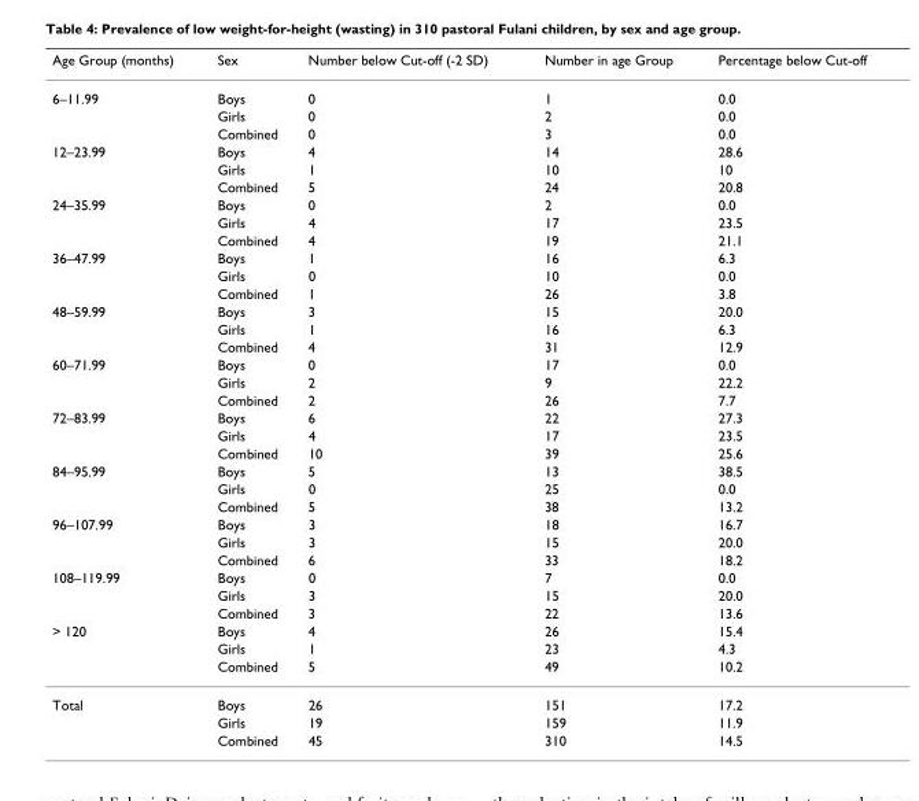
<table><thead><tr><td>Age Group (months)</td><td>Sex</td><td>Number below Cut-off (-2 SD)</td><td>Number in age Group</td><td>Percentage below Cut-off</td></tr></thead><tbody><tr><td rowspan="3">6–11.99</td><td>Boys</td><td>0</td><td>1</td><td>0.0</td></tr><tr><td>Girls</td><td>0</td><td>2</td><td>0.0</td></tr><tr><td>Combined</td><td>0</td><td>3</td><td>0.0</td></tr><tr><td rowspan="3">12–23.99</td><td>Boys</td><td>4</td><td>14</td><td>28.6</td></tr><tr><td>Girls</td><td>1</td><td>10</td><td>10</td></tr><tr><td>Combined</td><td>5</td><td>24</td><td>20.8</td></tr><tr><td rowspan="3">24–35.99</td><td>Boys</td><td>0</td><td>2</td><td>0.0</td></tr><tr><td>Girls</td><td>4</td><td>17</td><td>23.5</td></tr><tr><td>Combined</td><td>4</td><td>19</td><td>21.1</td></tr><tr><td rowspan="3">36–47.99</td><td>Boys</td><td>1</td><td>16</td><td>6.3</td></tr><tr><td>Girls</td><td>0</td><td>10</td><td>0.0</td></tr><tr><td>Combined</td><td>1</td><td>26</td><td>3.8</td></tr><tr><td rowspan="3">48–59.99</td><td>Boys</td><td>3</td><td>15</td><td>20.0</td></tr><tr><td>Girls</td><td>1</td><td>16</td><td>6.3</td></tr><tr><td>Combined</td><td>4</td><td>31</td><td>12.9</td></tr><tr><td rowspan="3">60–71.99</td><td>Boys</td><td>0</td><td>17</td><td>0.0</td></tr><tr><td>Girls</td><td>2</td><td>9</td><td>22.2</td></tr><tr><td>Combined</td><td>2</td><td>26</td><td>7.7</td></tr><tr><td rowspan="3">72–83.99</td><td>Boys</td><td>6</td><td>22</td><td>27.3</td></tr><tr><td>Girls</td><td>4</td><td>17</td><td>23.5</td></tr><tr><td>Combined</td><td>10</td><td>39</td><td>25.6</td></tr><tr><td rowspan="3">84–95.99</td><td>Boys</td><td>5</td><td>13</td><td>38.5</td></tr><tr><td>Girls</td><td>0</td><td>25</td><td>0.0</td></tr><tr><td>Combined</td><td>5</td><td>38</td><td>13.2</td></tr><tr><td rowspan="3">96–107.99</td><td>Boys</td><td>3</td><td>18</td><td>16.7</td></tr><tr><td>Girls</td><td>3</td><td>15</td><td>20.0</td></tr><tr><td>Combined</td><td>6</td><td>33</td><td>18.2</td></tr><tr><td rowspan="3">108–119.99</td><td>Boys</td><td>0</td><td>7</td><td>0.0</td></tr><tr><td>Girls</td><td>3</td><td>15</td><td>20.0</td></tr><tr><td>Combined</td><td>3</td><td>22</td><td>13.6</td></tr><tr><td rowspan="3">&gt; 120</td><td>Boys</td><td>4</td><td>26</td><td>15.4</td></tr><tr><td>Girls</td><td>1</td><td>23</td><td>4.3</td></tr><tr><td>Combined</td><td>5</td><td>49</td><td>10.2</td></tr><tr><td rowspan="3">Total</td><td>Boys</td><td>26</td><td>151</td><td>17.2</td></tr><tr><td>Girls</td><td>19</td><td>159</td><td>11.9</td></tr><tr><td>Combined</td><td>45</td><td>310</td><td>14.5</td></tr></tbody></table>